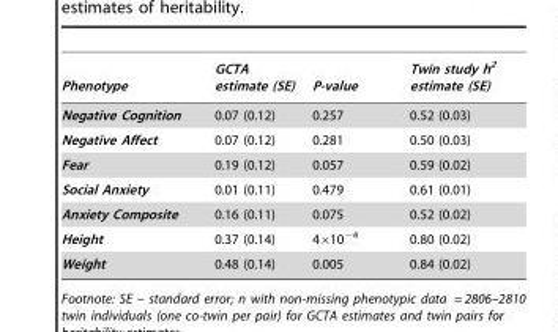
<table><thead><tr><td>Phenotype</td><td>GCTA estimate (SE)</td><td>P-value</td><td>Twin study h<sup>2</sup> estimate (SE)</td></tr></thead><tbody><tr><td>Negative Cognition</td><td>0.07 (0.12)</td><td>0.257</td><td>0.52 (0.03)</td></tr><tr><td>Negative Affect</td><td>0.07 (0.12)</td><td>0.281</td><td>0.50 (0.03)</td></tr><tr><td>Fear</td><td>0.19 (0.12)</td><td>0.057</td><td>0.59 (0.02)</td></tr><tr><td>Social Anxiety</td><td>0.01 (0.11)</td><td>0.479</td><td>0.61 (0.01)</td></tr><tr><td>Anxiety Composite</td><td>0.16 (0.11)</td><td>0.075</td><td>0.52 (0.02)</td></tr><tr><td>Height</td><td>0.37 (0.14)</td><td>4×10<sup>−4</sup></td><td>0.80 (0.02)</td></tr><tr><td>Weight</td><td>0.48 (0.14)</td><td>0.005</td><td>0.84 (0.02)</td></tr></tbody></table>